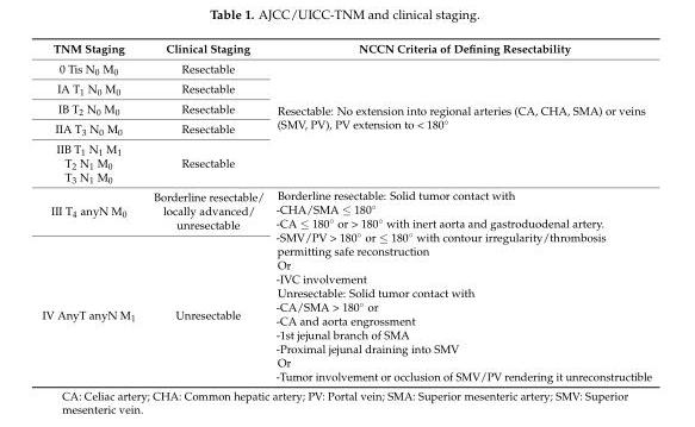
<table><thead><tr><td>TNM Staging</td><td>Clinical Staging</td><td>NCCN Criteria of Defining Resectability</td></tr></thead><tbody><tr><td>0 Tis N<sub>0</sub> M<sub>0</sub></td><td>Resectable</td><td rowspan="5">Resectable: No extension into regional arteries (CA, CHA, SMA) or veins (SMV, PV), PV extension to &lt; 180◦</td></tr><tr><td>IA T<sub>1</sub> N<sub>0</sub> M<sub>0</sub></td><td>Resectable</td></tr><tr><td>IB T<sub>2</sub> N<sub>0</sub> M<sub>0</sub></td><td>Resectable</td></tr><tr><td>IIA T<sub>3</sub> N<sub>0</sub> M<sub>0</sub></td><td>Resectable</td></tr><tr><td>IIB T<sub>1</sub> N<sub>1</sub> M<sub>1</sub> T<sub>2</sub> N<sub>1</sub> M<sub>0</sub> T<sub>3</sub> N<sub>1</sub> M<sub>0</sub></td><td>Resectable</td></tr><tr><td>III T<sub>4</sub> anyN M<sub>0</sub></td><td>Borderline resectable/ locally advanced/ unresectable</td><td rowspan="2">Borderline resectable: Solid tumor contact with -CHA/SMA ≤ 180◦ -CA ≤ 180◦ or &gt; 180◦ with inert aorta and gastroduodenal artery. -SMV/PV &gt; 180◦ or ≤ 180◦ with contour irregularity/thrombosis permitting safe reconstruction Or -IVC involvement Unresectable: Solid tumor contact with -CA/SMA &gt; 180◦ or -CA and aorta engrossment -1st jejunal branch of SMA -Proximal jejunal draining into SMV Or -Tumor involvement or occlusion of SMV/PV rendering it unreconstructible</td></tr><tr><td>IV AnyT anyN M<sub>1</sub></td><td>Unresectable</td></tr></tbody></table>